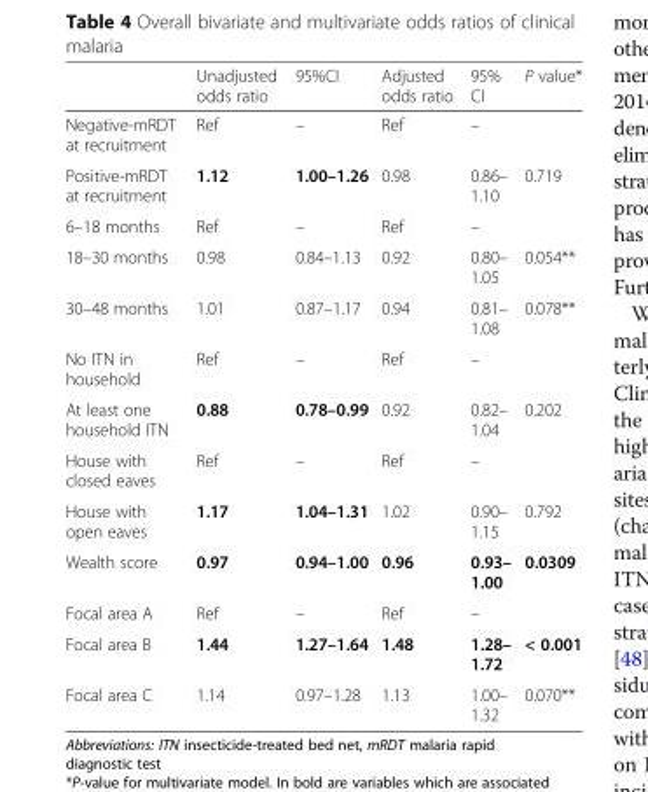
<table><thead><tr><td></td><td>Unadjusted odds ratio</td><td>95%CI</td><td>Adjusted odds ratio</td><td>95% CI</td><td>P value*</td></tr></thead><tbody><tr><td>Negative-mRDT at recruitment</td><td>Ref</td><td>–</td><td>Ref</td><td>–</td><td></td></tr><tr><td>Positive-mRDT at recruitment</td><td>1.12</td><td>1.00–1.26</td><td>0.98</td><td>0.86– 1.10</td><td>0.719</td></tr><tr><td>6–18 months</td><td>Ref</td><td>–</td><td>Ref</td><td>–</td><td></td></tr><tr><td>18–30 months</td><td>0.98</td><td>0.84–1.13</td><td>0.92</td><td>0.80– 1.05</td><td>0.054**</td></tr><tr><td>30–48 months</td><td>1.01</td><td>0.87–1.17</td><td>0.94</td><td>0.81– 1.08</td><td>0.078**</td></tr><tr><td>No ITN in household</td><td>Ref</td><td>–</td><td>Ref</td><td>–</td><td></td></tr><tr><td>At least one household ITN</td><td>0.88</td><td>0.78–0.99</td><td>0.92</td><td>0.82– 1.04</td><td>0.202</td></tr><tr><td>House with closed eaves</td><td>Ref</td><td>–</td><td>Ref</td><td>–</td><td></td></tr><tr><td>House with open eaves</td><td>1.17</td><td>1.04–1.31</td><td>1.02</td><td>0.90– 1.15</td><td>0.792</td></tr><tr><td>Wealth score</td><td>0.97</td><td>0.94–1.00</td><td>0.96</td><td>0.93– 1.00</td><td>0.0309</td></tr><tr><td>Focal area A</td><td>Ref</td><td>–</td><td>Ref</td><td>–</td><td></td></tr><tr><td>Focal area B</td><td>1.44</td><td>1.27–1.64</td><td>1.48</td><td>1.28– 1.72</td><td>&lt; 0.001</td></tr><tr><td>Focal area C</td><td>1.14</td><td>0.97–1.28</td><td>1.13</td><td>1.00– 1.32</td><td>0.070**</td></tr></tbody></table>